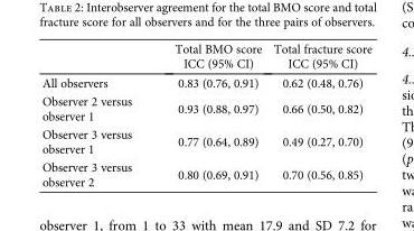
<table><thead><tr><td></td><td>Total BMO score ICC (95% CI)</td><td>Total fracture score ICC (95% CI)</td></tr></thead><tbody><tr><td>All observers</td><td>0.83 (0.76, 0.91)</td><td>0.62 (0.48, 0.76)</td></tr><tr><td>Observer 2 versus observer 1</td><td>0.93 (0.88, 0.97)</td><td>0.66 (0.50, 0.82)</td></tr><tr><td>Observer 3 versus observer 1</td><td>0.77 (0.64, 0.89)</td><td>0.49 (0.27, 0.70)</td></tr><tr><td>Observer 3 versus observer 2</td><td>0.80 (0.69, 0.91)</td><td>0.70 (0.56, 0.85)</td></tr></tbody></table>